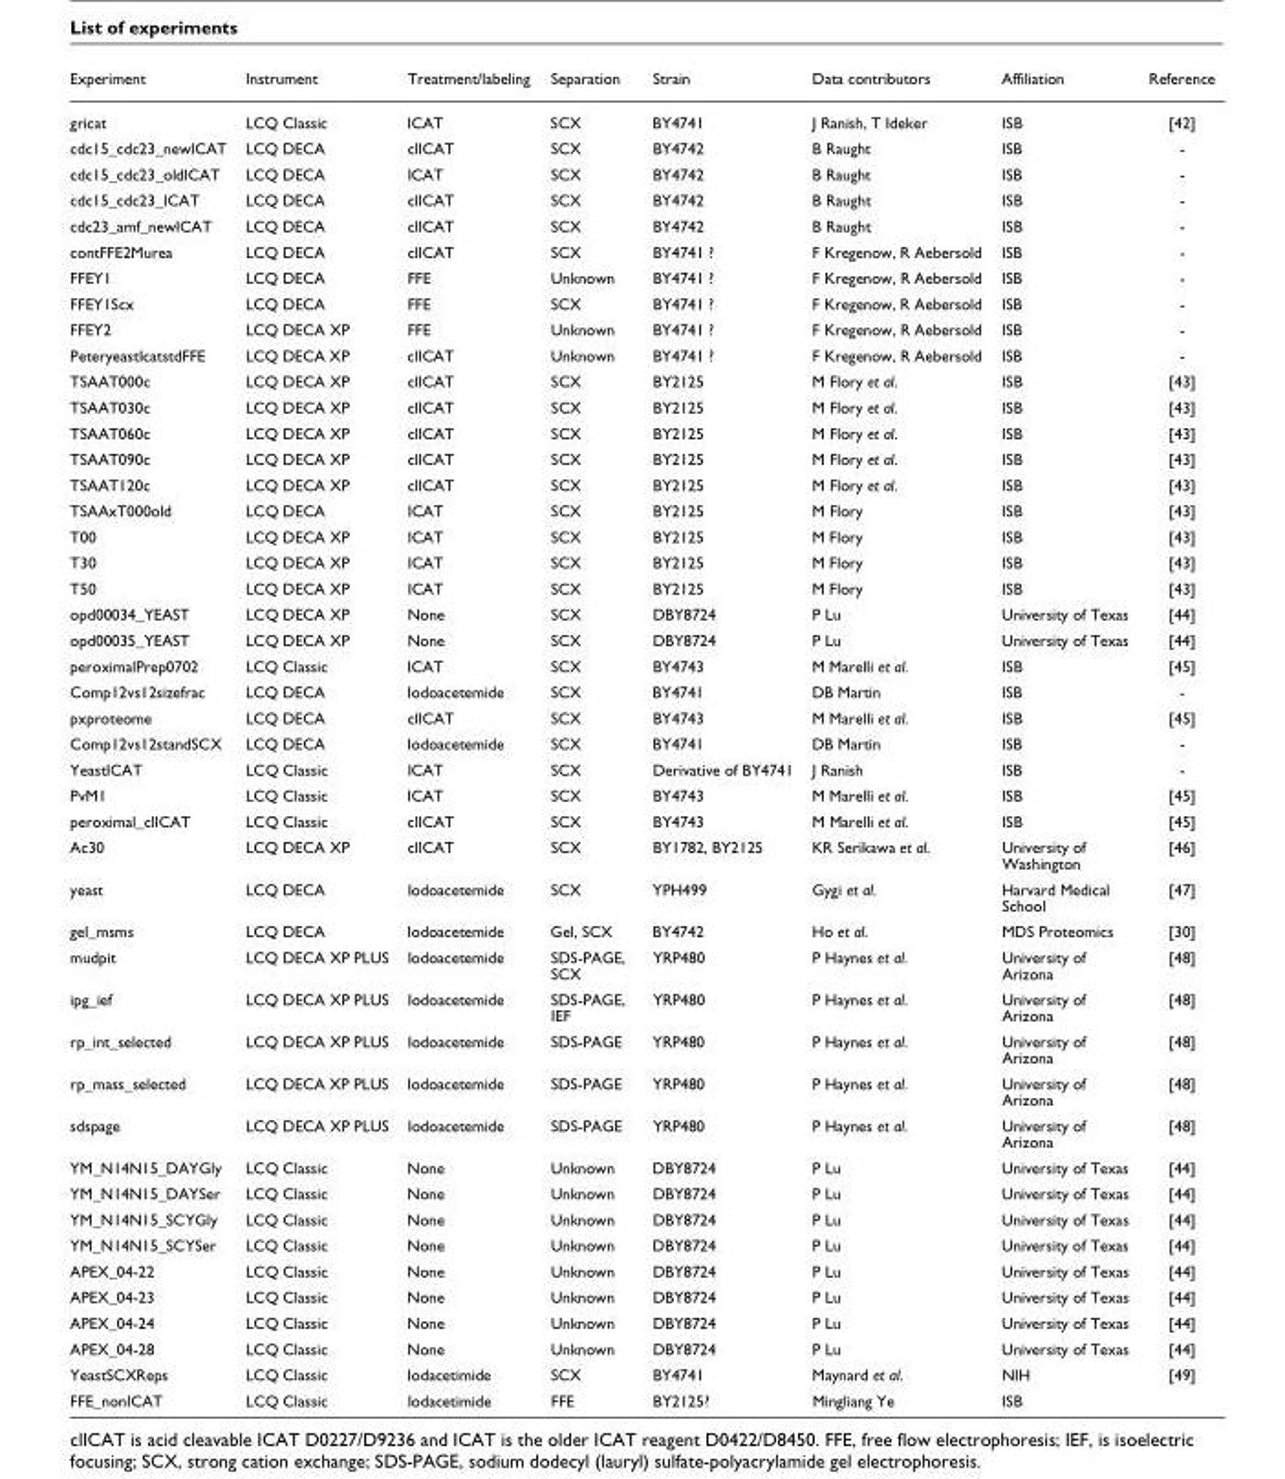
<table><thead><tr><td>Experiment</td><td>Instrument</td><td>Treatment/labeling</td><td>Separation</td><td>Strain</td><td>Data contributors</td><td>Affiliation</td><td>Reference</td></tr></thead><tbody><tr><td>gricat</td><td>LCQ Classic</td><td>ICAT</td><td>SCX</td><td>BY4741</td><td>J Ranish, T Ideker</td><td>ISB</td><td>[42]</td></tr><tr><td>cdc15_cdc23_newICAT</td><td>LCQ DECA</td><td>clICAT</td><td>SCX</td><td>BY4742</td><td>B Raught</td><td>ISB</td><td>-</td></tr><tr><td>cdc15_cdc23_oldICAT</td><td>LCQ DECA</td><td>ICAT</td><td>SCX</td><td>BY4742</td><td>B Raught</td><td>ISB</td><td>-</td></tr><tr><td>cdc15_cdc23_ICAT</td><td>LCQ DECA</td><td>clICAT</td><td>SCX</td><td>BY4742</td><td>B Raught</td><td>ISB</td><td>-</td></tr><tr><td>cdc23_amf_newICAT</td><td>LCQ DECA</td><td>clICAT</td><td>SCX</td><td>BY4742</td><td>B Raught</td><td>ISB</td><td>-</td></tr><tr><td>contFFE2Murea</td><td>LCQ DECA</td><td>clICAT</td><td>SCX</td><td>BY4741 ?</td><td>F Kregenow, R Aebersold</td><td>ISB</td><td>-</td></tr><tr><td>FFEY1</td><td>LCQ DECA</td><td>FFE</td><td>Unknown</td><td>BY4741 ?</td><td>F Kregenow, R Aebersold</td><td>ISB</td><td>-</td></tr><tr><td>FFEY1Scx</td><td>LCQ DECA</td><td>FFE</td><td>SCX</td><td>BY4741 ?</td><td>F Kregenow, R Aebersold</td><td>ISB</td><td>-</td></tr><tr><td>FFEY2</td><td>LCQ DECA XP</td><td>FFE</td><td>Unknown</td><td>BY4741 ?</td><td>F Kregenow, R Aebersold</td><td>ISB</td><td>-</td></tr><tr><td>PeteryeastIcatstdFFE</td><td>LCQ DECA XP</td><td>clICAT</td><td>Unknown</td><td>BY4741 ?</td><td>F Kregenow, R Aebersold</td><td>ISB</td><td>-</td></tr><tr><td>TSAAT000c</td><td>LCQ DECA XP</td><td>clICAT</td><td>SCX</td><td>BY2125</td><td>M Flory et al.</td><td>ISB</td><td>[43]</td></tr><tr><td>TSAAT030c</td><td>LCQ DECA XP</td><td>clICAT</td><td>SCX</td><td>BY2125</td><td>M Flory et al.</td><td>ISB</td><td>[43]</td></tr><tr><td>TSAAT060c</td><td>LCQ DECA XP</td><td>clICAT</td><td>SCX</td><td>BY2125</td><td>M Flory et al.</td><td>ISB</td><td>[43]</td></tr><tr><td>TSAAT090c</td><td>LCQ DECA XP</td><td>clICAT</td><td>SCX</td><td>BY2125</td><td>M Flory et al.</td><td>ISB</td><td>[43]</td></tr><tr><td>TSAAT120c</td><td>LCQ DECA XP</td><td>clICAT</td><td>SCX</td><td>BY2125</td><td>M Flory et al.</td><td>ISB</td><td>[43]</td></tr><tr><td>TSAAxT000old</td><td>LCQ DECA</td><td>ICAT</td><td>SCX</td><td>BY2125</td><td>M Flory</td><td>ISB</td><td>[43]</td></tr><tr><td>T00</td><td>LCQ DECA XP</td><td>ICAT</td><td>SCX</td><td>BY2125</td><td>M Flory</td><td>ISB</td><td>[43]</td></tr><tr><td>T30</td><td>LCQ DECA XP</td><td>ICAT</td><td>SCX</td><td>BY2125</td><td>M Flory</td><td>ISB</td><td>[43]</td></tr><tr><td>T50</td><td>LCQ DECA XP</td><td>ICAT</td><td>SCX</td><td>BY2125</td><td>M Flory</td><td>ISB</td><td>[43]</td></tr><tr><td>opd00034_YEAST</td><td>LCQ DECA XP</td><td>None</td><td>SCX</td><td>DBY8724</td><td>P Lu</td><td>University of Texas</td><td>[44]</td></tr><tr><td>opd00035_YEAST</td><td>LCQ DECA XP</td><td>None</td><td>SCX</td><td>DBY8724</td><td>P Lu</td><td>University of Texas</td><td>[44]</td></tr><tr><td>peroximalPrep0702</td><td>LCQ Classic</td><td>ICAT</td><td>SCX</td><td>BY4743</td><td>M Marelli et al.</td><td>ISB</td><td>[45]</td></tr><tr><td>Comp12vs12sizefrac</td><td>LCQ DECA</td><td>Iodoacetemide</td><td>SCX</td><td>BY4741</td><td>DB Martin</td><td>ISB</td><td>-</td></tr><tr><td>pxproteome</td><td>LCQ DECA</td><td>clICAT</td><td>SCX</td><td>BY4743</td><td>M Marelli et al.</td><td>ISB</td><td>[45]</td></tr><tr><td>Comp12vs12standSCX</td><td>LCQ DECA</td><td>Iodoacetemide</td><td>SCX</td><td>BY4741</td><td>DB Martin</td><td>ISB</td><td>-</td></tr><tr><td>YeastICAT</td><td>LCQ Classic</td><td>ICAT</td><td>SCX</td><td>Derivative of BY4741</td><td>J Ranish</td><td>ISB</td><td>-</td></tr><tr><td>PvM1</td><td>LCQ Classic</td><td>ICAT</td><td>SCX</td><td>BY4743</td><td>M Marelli et al.</td><td>ISB</td><td>[45]</td></tr><tr><td>peroximal_clICAT</td><td>LCQ Classic</td><td>clICAT</td><td>SCX</td><td>BY4743</td><td>M Marelli et al.</td><td>ISB</td><td>[45]</td></tr><tr><td>Ac30</td><td>LCQ DECA XP</td><td>clICAT</td><td>SCX</td><td>BY1782, BY2125</td><td>KR Serikawa et al.</td><td>University of Washington</td><td>[46]</td></tr><tr><td>yeast</td><td>LCQ DECA</td><td>Iodoacetemide</td><td>SCX</td><td>YPH499</td><td>Gygi et al.</td><td>Harvard Medical School</td><td>[47]</td></tr><tr><td>gel_msms</td><td>LCQ DECA</td><td>Iodoacetemide</td><td>Gel, SCX</td><td>BY4742</td><td>Ho et al.</td><td>MDS Proteomics</td><td>[30]</td></tr><tr><td>mudpit</td><td>LCQ DECA XP PLUS</td><td>Iodoacetemide</td><td>SDS-PAGE, SCX</td><td>YRP480</td><td>P Haynes et al.</td><td>University of Arizona</td><td>[48]</td></tr><tr><td>ipg_ief</td><td>LCQ DECA XP PLUS</td><td>Iodoacetemide</td><td>SDS-PAGE, IEF</td><td>YRP480</td><td>P Haynes et al.</td><td>University of Arizona</td><td>[48]</td></tr><tr><td>rp_int_selected</td><td>LCQ DECA XP PLUS</td><td>Iodoacetemide</td><td>SDS-PAGE</td><td>YRP480</td><td>P Haynes et al.</td><td>University of Arizona</td><td>[48]</td></tr><tr><td>rp_mass_selected</td><td>LCQ DECA XP PLUS</td><td>Iodoacetemide</td><td>SDS-PAGE</td><td>YRP480</td><td>P Haynes et al.</td><td>University of Arizona</td><td>[48]</td></tr><tr><td>sdspage</td><td>LCQ DECA XP PLUS</td><td>Iodoacetemide</td><td>SDS-PAGE</td><td>YRP480</td><td>P Haynes et al.</td><td>University of Arizona</td><td>[48]</td></tr><tr><td>YM_N14N15_DAYGly</td><td>LCQ Classic</td><td>None</td><td>Unknown</td><td>DBY8724</td><td>P Lu</td><td>University of Texas</td><td>[44]</td></tr><tr><td>YM_N14N15_DAYSer</td><td>LCQ Classic</td><td>None</td><td>Unknown</td><td>DBY8724</td><td>P Lu</td><td>University of Texas</td><td>[44]</td></tr><tr><td>YM_N14N15_SCYGly</td><td>LCQ Classic</td><td>None</td><td>Unknown</td><td>DBY8724</td><td>P Lu</td><td>University of Texas</td><td>[44]</td></tr><tr><td>YM_N14N15_SCYSer</td><td>LCQ Classic</td><td>None</td><td>Unknown</td><td>DBY8724</td><td>P Lu</td><td>University of Texas</td><td>[44]</td></tr><tr><td>APEX_04-22</td><td>LCQ Classic</td><td>None</td><td>Unknown</td><td>DBY8724</td><td>P Lu</td><td>University of Texas</td><td>[44]</td></tr><tr><td>APEX_04-23</td><td>LCQ Classic</td><td>None</td><td>Unknown</td><td>DBY8724</td><td>P Lu</td><td>University of Texas</td><td>[44]</td></tr><tr><td>APEX_04-24</td><td>LCQ Classic</td><td>None</td><td>Unknown</td><td>DBY8724</td><td>P Lu</td><td>University of Texas</td><td>[44]</td></tr><tr><td>APEX_04-28</td><td>LCQ Classic</td><td>None</td><td>Unknown</td><td>DBY8724</td><td>P Lu</td><td>University of Texas</td><td>[44]</td></tr><tr><td>YeastSCXReps</td><td>LCQ Classic</td><td>Iodacetimide</td><td>SCX</td><td>BY4741</td><td>Maynard et al.</td><td>NIH</td><td>[49]</td></tr><tr><td>FFE_nonICAT</td><td>LCQ Classic</td><td>Iodacetimide</td><td>FFE</td><td>BY2125?</td><td>Mingliang Ye</td><td>ISB</td><td></td></tr></tbody></table>